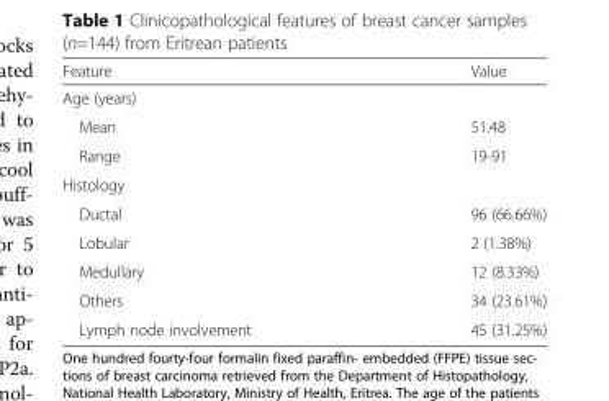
<table><thead><tr><td>Feature</td><td>Value</td></tr></thead><tbody><tr><td colspan="2">Age (years)</td></tr><tr><td>Mean</td><td>51.48</td></tr><tr><td>Range</td><td>19-91</td></tr><tr><td colspan="2">Histology</td></tr><tr><td>Ductal</td><td>96 (66.66%)</td></tr><tr><td>Lobular</td><td>2 (1.38%)</td></tr><tr><td>Medullary</td><td>12 (8.33%)</td></tr><tr><td>Others</td><td>34 (23.61%)</td></tr><tr><td>Lymph node involvement</td><td>45 (31.25%)</td></tr></tbody></table>